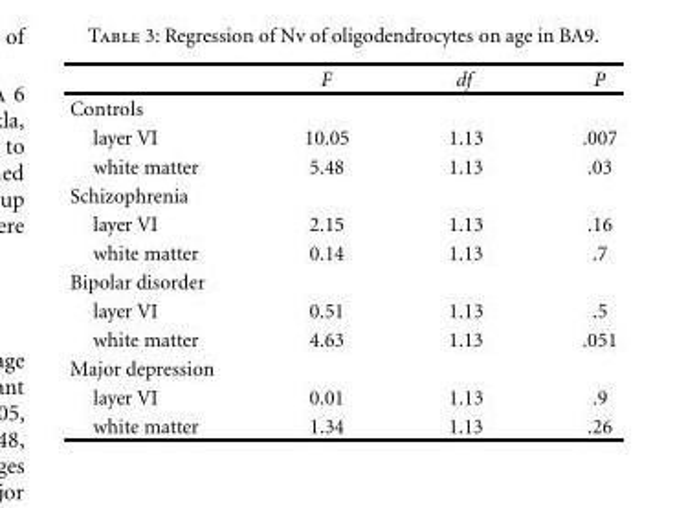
<table><thead><tr><td></td><td>F</td><td>df</td><td>P</td></tr></thead><tbody><tr><td colspan="4">Controls</td></tr><tr><td>layer VI</td><td>10.05</td><td>1.13</td><td>.007</td></tr><tr><td>white matter</td><td>5.48</td><td>1.13</td><td>.03</td></tr><tr><td colspan="4">Schizophrenia</td></tr><tr><td>layer VI</td><td>2.15</td><td>1.13</td><td>.16</td></tr><tr><td>white matter</td><td>0.14</td><td>1.13</td><td>.7</td></tr><tr><td colspan="4">Bipolar disorder</td></tr><tr><td>layer VI</td><td>0.51</td><td>1.13</td><td>.5</td></tr><tr><td>white matter</td><td>4.63</td><td>1.13</td><td>.051</td></tr><tr><td colspan="4">Major depression</td></tr><tr><td>layer VI</td><td>0.01</td><td>1.13</td><td>.9</td></tr><tr><td>white matter</td><td>1.34</td><td>1.13</td><td>.26</td></tr></tbody></table>